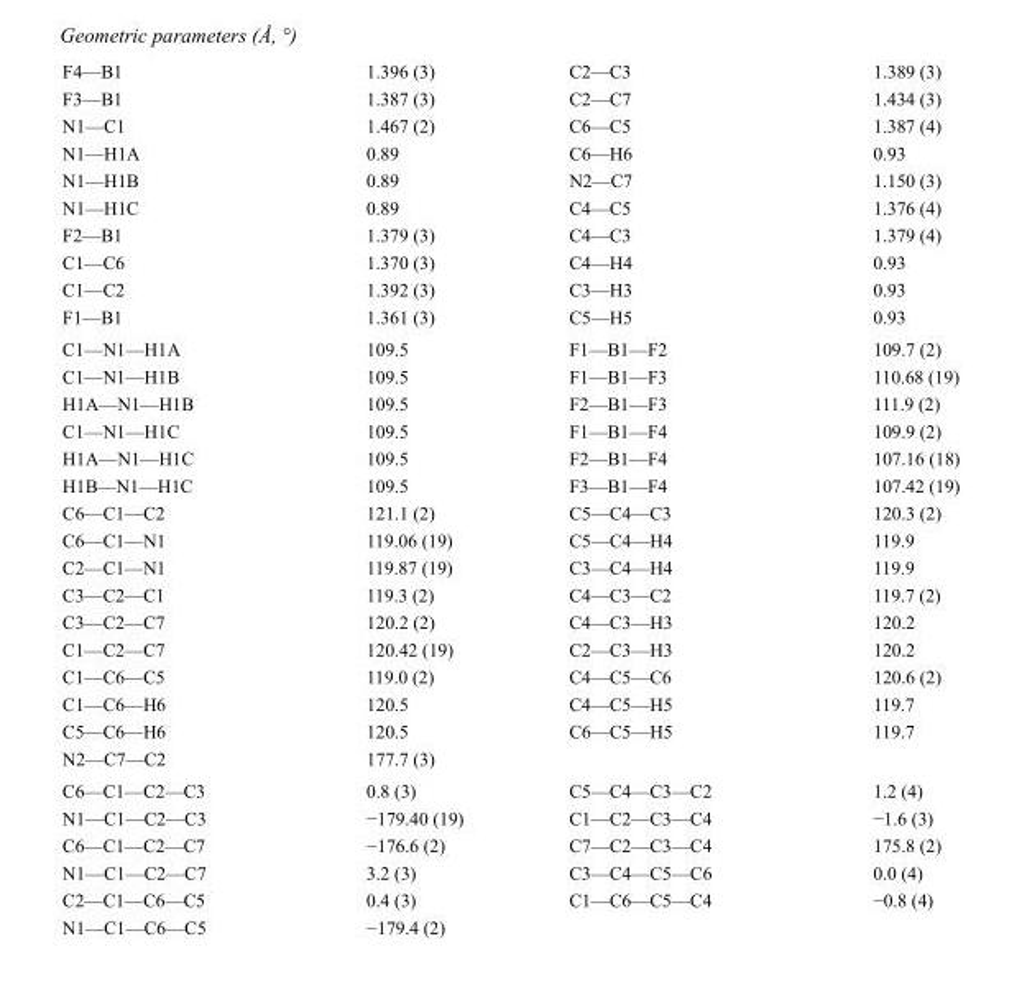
<table><tbody><tr><td>F4—B1</td><td>1.396 (3)</td><td>C2—C3</td><td>1.389 (3)</td></tr><tr><td>F3—B1</td><td>1.387 (3)</td><td>C2—C7</td><td>1.434 (3)</td></tr><tr><td>N1—C1</td><td>1.467 (2)</td><td>C6—C5</td><td>1.387 (4)</td></tr><tr><td>N1—H1A</td><td>0.89</td><td>C6—H6</td><td>0.93</td></tr><tr><td>N1—H1B</td><td>0.89</td><td>N2—C7</td><td>1.150 (3)</td></tr><tr><td>N1—H1C</td><td>0.89</td><td>C4—C5</td><td>1.376 (4)</td></tr><tr><td>F2—B1</td><td>1.379 (3)</td><td>C4—C3</td><td>1.379 (4)</td></tr><tr><td>C1—C6</td><td>1.370 (3)</td><td>C4—H4</td><td>0.93</td></tr><tr><td>C1—C2</td><td>1.392 (3)</td><td>C3—H3</td><td>0.93</td></tr><tr><td>F1—B1</td><td>1.361 (3)</td><td>C5—H5</td><td>0.93</td></tr><tr><td>C1—N1—H1A</td><td>109.5</td><td>F1—B1—F2</td><td>109.7 (2)</td></tr><tr><td>C1—N1—H1B</td><td>109.5</td><td>F1—B1—F3</td><td>110.68 (19)</td></tr><tr><td>H1A—N1—H1B</td><td>109.5</td><td>F2—B1—F3</td><td>111.9 (2)</td></tr><tr><td>C1—N1—H1C</td><td>109.5</td><td>F1—B1—F4</td><td>109.9 (2)</td></tr><tr><td>H1A—N1—H1C</td><td>109.5</td><td>F2—B1—F4</td><td>107.16 (18)</td></tr><tr><td>H1B—N1—H1C</td><td>109.5</td><td>F3—B1—F4</td><td>107.42 (19)</td></tr><tr><td>C6—C1—C2</td><td>121.1 (2)</td><td>C5—C4—C3</td><td>120.3 (2)</td></tr><tr><td>C6—C1—N1</td><td>119.06 (19)</td><td>C5—C4—H4</td><td>119.9</td></tr><tr><td>C2—C1—N1</td><td>119.87 (19)</td><td>C3—C4—H4</td><td>119.9</td></tr><tr><td>C3—C2—C1</td><td>119.3 (2)</td><td>C4—C3—C2</td><td>119.7 (2)</td></tr><tr><td>C3—C2—C7</td><td>120.2 (2)</td><td>C4—C3—H3</td><td>120.2</td></tr><tr><td>C1—C2—C7</td><td>120.42 (19)</td><td>C2—C3—H3</td><td>120.2</td></tr><tr><td>C1—C6—C5</td><td>119.0 (2)</td><td>C4—C5—C6</td><td>120.6 (2)</td></tr><tr><td>C1—C6—H6</td><td>120.5</td><td>C4—C5—H5</td><td>119.7</td></tr><tr><td>C5—C6—H6</td><td>120.5</td><td>C6—C5—H5</td><td>119.7</td></tr><tr><td>N2—C7—C2</td><td>177.7 (3)</td><td></td><td></td></tr><tr><td>C6—C1—C2—C3</td><td>0.8 (3)</td><td>C5—C4—C3—C2</td><td>1.2 (4)</td></tr><tr><td>N1—C1—C2—C3</td><td>−179.40 (19)</td><td>C1—C2—C3—C4</td><td>−1.6 (3)</td></tr><tr><td>C6—C1—C2—C7</td><td>−176.6 (2)</td><td>C7—C2—C3—C4</td><td>175.8 (2)</td></tr><tr><td>N1—C1—C2—C7</td><td>3.2 (3)</td><td>C3—C4—C5—C6</td><td>0.0 (4)</td></tr><tr><td>C2—C1—C6—C5</td><td>0.4 (3)</td><td>C1—C6—C5—C4</td><td>−0.8 (4)</td></tr><tr><td>N1—C1—C6—C5</td><td>−179.4 (2)</td><td></td><td></td></tr></tbody></table>